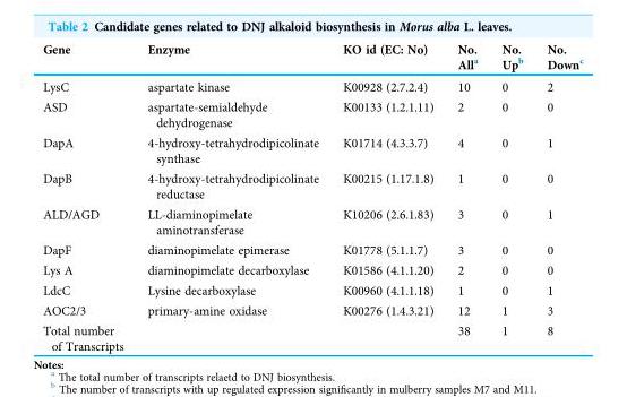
<table><thead><tr><td>Gene</td><td>Enzyme</td><td>KO id (EC: No)</td><td>No. All<sup>a</sup></td><td>No. Up<sup>b</sup></td><td>No. Down<sup>c</sup></td></tr></thead><tbody><tr><td>LysC</td><td>aspartate kinase</td><td>K00928 (2.7.2.4)</td><td>10</td><td>0</td><td>2</td></tr><tr><td>ASD</td><td>aspartate-semialdehyde dehydrogenase</td><td>K00133 (1.2.1.11)</td><td>2</td><td>0</td><td>0</td></tr><tr><td>DapA</td><td>4-hydroxy-tetrahydrodipicolinate synthase</td><td>K01714 (4.3.3.7)</td><td>4</td><td>0</td><td>1</td></tr><tr><td>DapB</td><td>4-hydroxy-tetrahydrodipicolinate reductase</td><td>K00215 (1.17.1.8)</td><td>1</td><td>0</td><td>0</td></tr><tr><td>ALD/AGD</td><td>LL-diaminopimelate aminotransferase</td><td>K10206 (2.6.1.83)</td><td>3</td><td>0</td><td>1</td></tr><tr><td>DapF</td><td>diaminopimelate epimerase</td><td>K01778 (5.1.1.7)</td><td>3</td><td>0</td><td>0</td></tr><tr><td>Lys A</td><td>diaminopimelate decarboxylase</td><td>K01586 (4.1.1.20)</td><td>2</td><td>0</td><td>0</td></tr><tr><td>LdcC</td><td>Lysine decarboxylase</td><td>K00960 (4.1.1.18)</td><td>1</td><td>0</td><td>1</td></tr><tr><td>AOC2/3</td><td>primary-amine oxidase</td><td>K00276 (1.4.3.21)</td><td>12</td><td>1</td><td>3</td></tr><tr><td>Total number of Transcripts</td><td></td><td></td><td>38</td><td>1</td><td>8</td></tr></tbody></table>